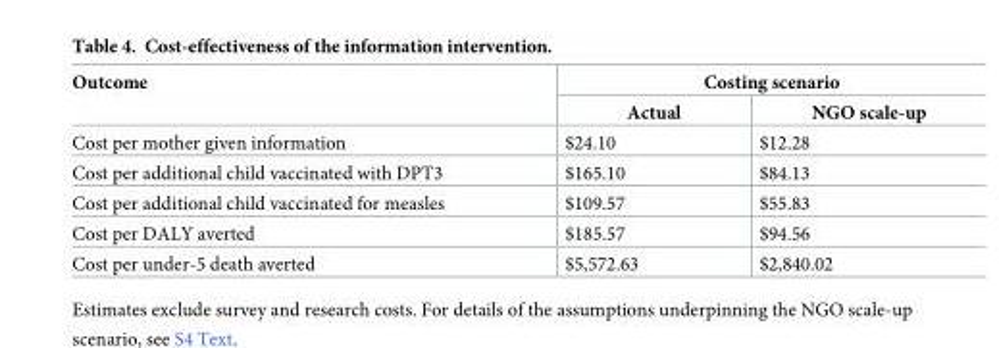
<table><thead><tr><td rowspan="2">Outcome</td><td colspan="2">Costing scenario</td></tr><tr><td>Actual</td><td>NGO scale-up</td></tr></thead><tbody><tr><td>Cost per mother given information</td><td>$24.10</td><td>$12.28</td></tr><tr><td>Cost per additional child vaccinated with DPT3</td><td>$165.10</td><td>$84.13</td></tr><tr><td>Cost per additional child vaccinated for measles</td><td>$109.57</td><td>$55.83</td></tr><tr><td>Cost per DALY averted</td><td>$185.57</td><td>$94.56</td></tr><tr><td>Cost per under-5 death averted</td><td>$5,572.63</td><td>$2,840.02</td></tr></tbody></table>